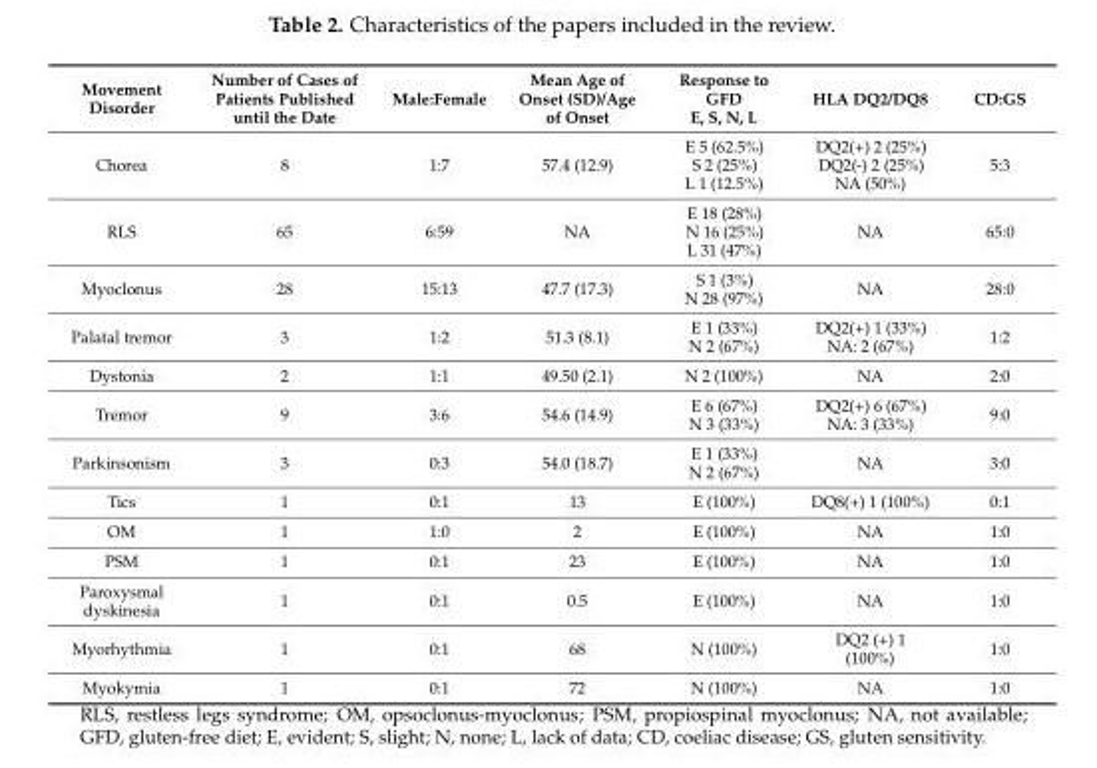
<table><thead><tr><td>Movement Disorder</td><td>Number of Cases of Patients Published until the Date</td><td>Male:Female</td><td>Mean Age of Onset (SD)/Age of Onset</td><td>Response to GFD E, S, N, L</td><td>HLA DQ2/DQ8</td><td>CD:GS</td></tr></thead><tbody><tr><td>Chorea</td><td>8</td><td>1:7</td><td>57.4 (12.9)</td><td>E 5 (62.5%) S 2 (25%) L 1 (12.5%)</td><td>DQ2(+) 2 (25%) DQ2(-) 2 (25%) NA (50%)</td><td>5:3</td></tr><tr><td>RLS</td><td>65</td><td>6:59</td><td>NA</td><td>E 18 (28%) N 16 (25%) L 31 (47%)</td><td>NA</td><td>65:0</td></tr><tr><td>Myoclonus</td><td>28</td><td>15:13</td><td>47.7 (17.3)</td><td>S 1 (3%) N 28 (97%)</td><td>NA</td><td>28:0</td></tr><tr><td>Palatal tremor</td><td>3</td><td>1:2</td><td>51.3 (8.1)</td><td>E 1 (33%) N 2 (67%)</td><td>DQ2(+) 1 (33%) NA: 2 (67%)</td><td>1:2</td></tr><tr><td>Dystonia</td><td>2</td><td>1:1</td><td>49.50 (2.1)</td><td>N 2 (100%)</td><td>NA</td><td>2:0</td></tr><tr><td>Tremor</td><td>9</td><td>3:6</td><td>54.6 (14.9)</td><td>E 6 (67%) N 3 (33%)</td><td>DQ2(+) 6 (67%) NA: 3 (33%)</td><td>9:0</td></tr><tr><td>Parkinsonism</td><td>3</td><td>0:3</td><td>54.0 (18.7)</td><td>E 1 (33%) N 2 (67%)</td><td>NA</td><td>3:0</td></tr><tr><td>Tics</td><td>1</td><td>0:1</td><td>13</td><td>E (100%)</td><td>DQ8(+) 1 (100%)</td><td>0:1</td></tr><tr><td>OM</td><td>1</td><td>1:0</td><td>2</td><td>E (100%)</td><td>NA</td><td>1:0</td></tr><tr><td>PSM</td><td>1</td><td>0:1</td><td>23</td><td>E (100%)</td><td>NA</td><td>1:0</td></tr><tr><td>Paroxysmal dyskinesia</td><td>1</td><td>0:1</td><td>0.5</td><td>E (100%)</td><td>NA</td><td>1:0</td></tr><tr><td>Myorhythmia</td><td>1</td><td>0:1</td><td>68</td><td>N (100%)</td><td>DQ2 (+) 1 (100%)</td><td>1:0</td></tr><tr><td>Myokymia</td><td>1</td><td>0:1</td><td>72</td><td>N (100%)</td><td>NA</td><td>1:0</td></tr></tbody></table>